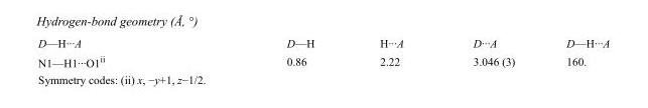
<table><tbody><tr><td>D—H···A</td><td>D—H</td><td>H···A</td><td>D···A</td><td>D—H···A</td></tr><tr><td>N1—H1···O1<sup>ii</sup></td><td>0.86</td><td>2.22</td><td>3.046 (3)</td><td>160.</td></tr></tbody></table>